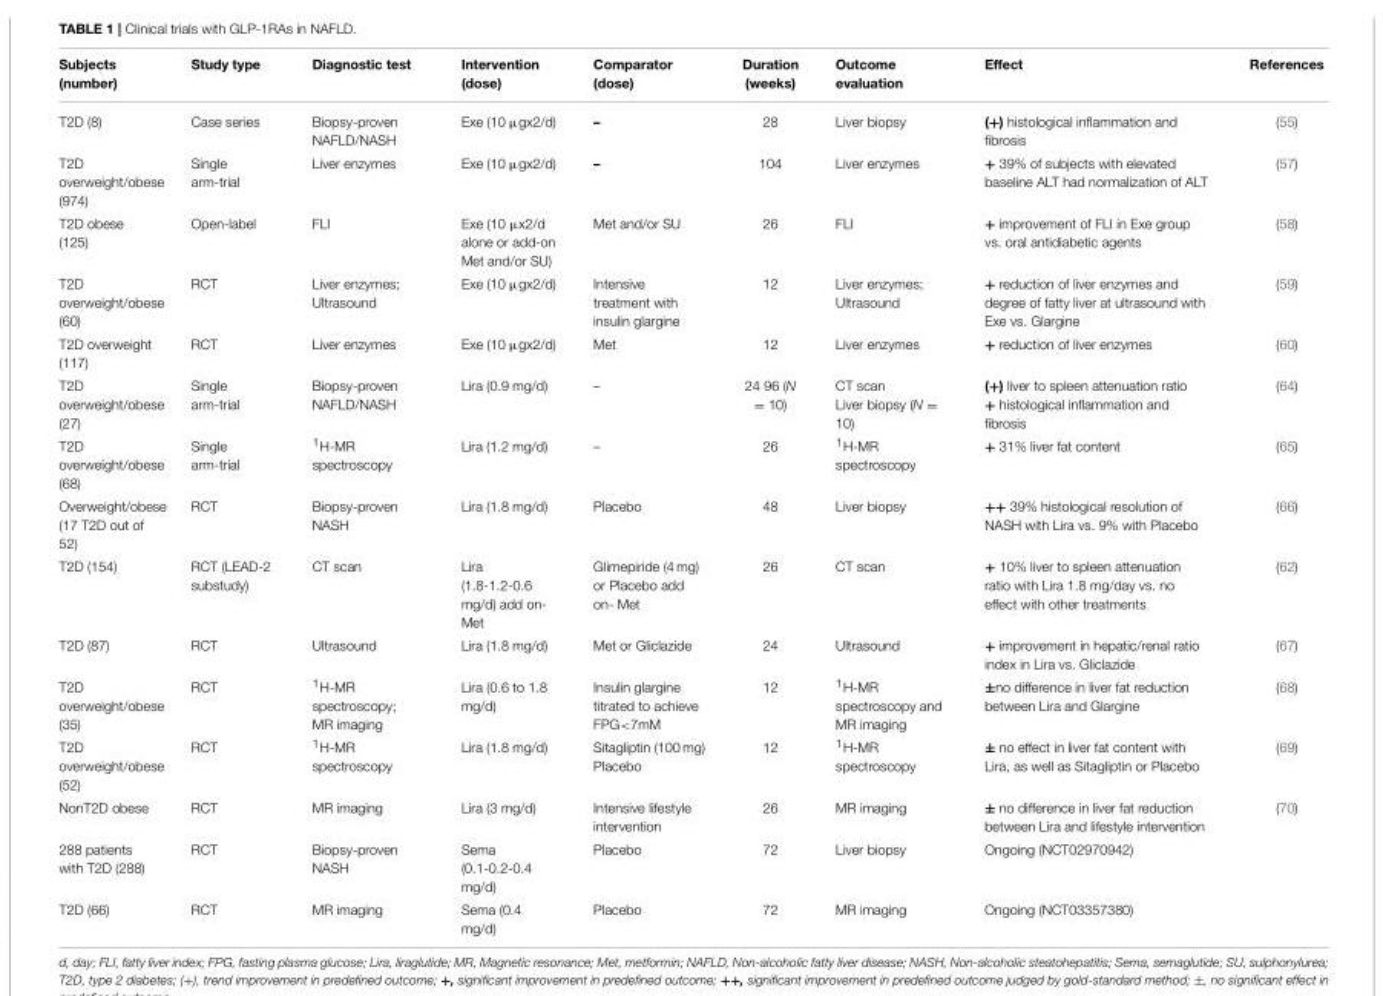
<table><thead><tr><td>Subjects (number)</td><td>Study type</td><td>Diagnostic test</td><td>Intervention (dose)</td><td>Comparator (dose)</td><td>Duration (weeks)</td><td>Outcome evaluation</td><td>Effect</td><td>References</td></tr></thead><tbody><tr><td>T2D (8)</td><td>Case series</td><td>Biopsy-proven NAFLD/NASH</td><td>Exe (10 µgx2/d)</td><td>–</td><td>28</td><td>Liver biopsy</td><td>(+) histological inflammation and fibrosis</td><td>(55)</td></tr><tr><td>T2D overweight/obese (974)</td><td>Single arm-trial</td><td>Liver enzymes</td><td>Exe (10 µgx2/d)</td><td>–</td><td>104</td><td>Liver enzymes</td><td>+ 39% of subjects with elevated baseline ALT had normalization of ALT</td><td>(57)</td></tr><tr><td>T2D obese (125)</td><td>Open-label</td><td>FLI</td><td>Exe (10 µx2/d alone or add-on Met and/or SU)</td><td>Met and/or SU</td><td>26</td><td>FLI</td><td>+ improvement of FLI in Exe group vs. oral antidiabetic agents</td><td>(58)</td></tr><tr><td>T2D overweight/obese (60)</td><td>RCT</td><td>Liver enzymes; Ultrasound</td><td>Exe (10 µgx2/d)</td><td>Intensive treatment with insulin glargine</td><td>12</td><td>Liver enzymes; Ultrasound</td><td>+ reduction of liver enzymes and degree of fatty liver at ultrasound with Exe vs. Glargine</td><td>(59)</td></tr><tr><td>T2D overweight (117)</td><td>RCT</td><td>Liver enzymes</td><td>Exe (10 µgx2/d)</td><td>Met</td><td>12</td><td>Liver enzymes</td><td>+ reduction of liver enzymes</td><td>(60)</td></tr><tr><td>T2D overweight/obese (27)</td><td>Single arm-trial</td><td>Biopsy-proven NAFLD/NASH</td><td>Lira (0.9 mg/d)</td><td>–</td><td>24 96 (N = 10)</td><td>CT scan Liver biopsy (N = 10)</td><td>(+) liver to spleen attenuation ratio + histological inflammation and fibrosis</td><td>(64)</td></tr><tr><td>T2D overweight/obese (68)</td><td>Single arm-trial</td><td><sup>1</sup>H-MR spectroscopy</td><td>Lira (1.2 mg/d)</td><td>–</td><td>26</td><td><sup>1</sup>H-MR spectroscopy</td><td>+ 31% liver fat content</td><td>(65)</td></tr><tr><td>Overweight/obese (17 T2D out of 52)</td><td>RCT</td><td>Biopsy-proven NASH</td><td>Lira (1.8 mg/d)</td><td>Placebo</td><td>48</td><td>Liver biopsy</td><td>++ 39% histological resolution of NASH with Lira vs. 9% with Placebo</td><td>(66)</td></tr><tr><td>T2D (154)</td><td>RCT (LEAD-2 substudy)</td><td>CT scan</td><td>Lira (1.8-1.2-0.6 mg/d) add on- Met</td><td>Glimepiride (4 mg) or Placebo add on- Met</td><td>26</td><td>CT scan</td><td>+ 10% liver to spleen attenuation ratio with Lira 1.8 mg/day vs. no effect with other treatments</td><td>(62)</td></tr><tr><td>T2D (87)</td><td>RCT</td><td>Ultrasound</td><td>Lira (1.8 mg/d)</td><td>Met or Gliclazide</td><td>24</td><td>Ultrasound</td><td>+ improvement in hepatic/renal ratio index in Lira vs. Gliclazide</td><td>(67)</td></tr><tr><td>T2D overweight/obese (35)</td><td>RCT</td><td><sup>1</sup>H-MR spectroscopy; MR imaging</td><td>Lira (0.6 to 1.8 mg/d)</td><td>Insulin glargine titrated to achieve FPG&lt;7mM</td><td>12</td><td><sup>1</sup>H-MR spectroscopy and MR imaging</td><td>±no difference in liver fat reduction between Lira and Glargine</td><td>(68)</td></tr><tr><td>T2D overweight/obese (52)</td><td>RCT</td><td><sup>1</sup>H-MR spectroscopy</td><td>Lira (1.8 mg/d)</td><td>Sitagliptin (100 mg) Placebo</td><td>12</td><td><sup>1</sup>H-MR spectroscopy</td><td>± no effect in liver fat content with Lira, as well as Sitagliptin or Placebo</td><td>(69)</td></tr><tr><td>NonT2D obese</td><td>RCT</td><td>MR imaging</td><td>Lira (3 mg/d)</td><td>Intensive lifestyle intervention</td><td>26</td><td>MR imaging</td><td>± no difference in liver fat reduction between Lira and lifestyle intervention</td><td>(70)</td></tr><tr><td>288 patients with T2D (288)</td><td>RCT</td><td>Biopsy-proven NASH</td><td>Sema (0.1-0.2-0.4 mg/d)</td><td>Placebo</td><td>72</td><td>Liver biopsy</td><td>Ongoing (NCT02970942)</td><td></td></tr><tr><td>T2D (66)</td><td>RCT</td><td>MR imaging</td><td>Sema (0.4 mg/d)</td><td>Placebo</td><td>72</td><td>MR imaging</td><td>Ongoing (NCT03357380)</td><td></td></tr></tbody></table>